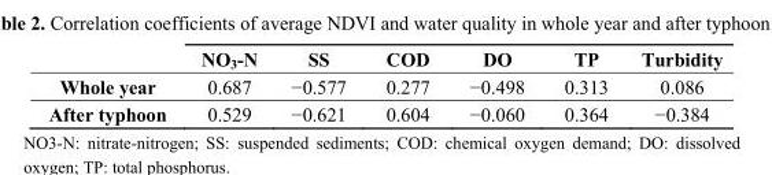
<table><thead><tr><td></td><td>NO<sub>3</sub>-N</td><td>SS</td><td>COD</td><td>DO</td><td>TP</td><td>Turbidity</td></tr></thead><tbody><tr><td>Whole year</td><td>0.687</td><td>−0.577</td><td>0.277</td><td>−0.498</td><td>0.313</td><td>0.086</td></tr><tr><td>After typhoon</td><td>0.529</td><td>−0.621</td><td>0.604</td><td>−0.060</td><td>0.364</td><td>−0.384</td></tr></tbody></table>